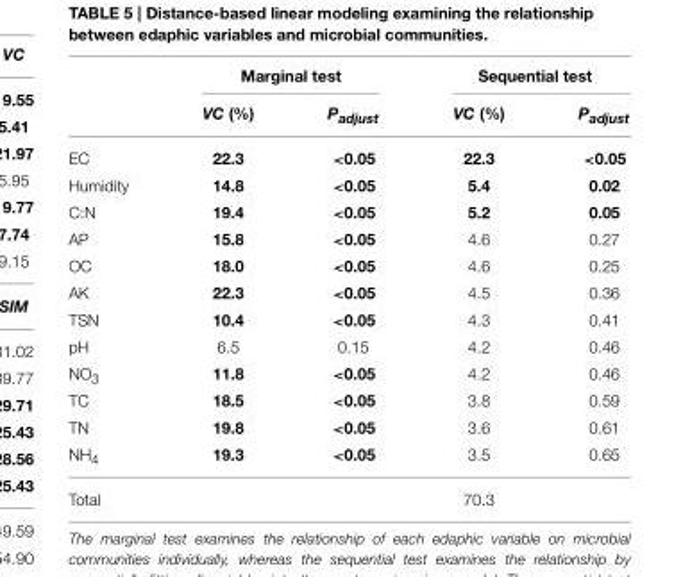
<table><thead><tr><td rowspan="2"></td><td colspan="2">Marginal test</td><td colspan="2">Sequential test</td></tr><tr><td>VC (%)</td><td>P<sub>adjust</sub></td><td>VC (%)</td><td>P<sub>adjust</sub></td></tr></thead><tbody><tr><td>EC</td><td>22.3</td><td>&lt;0.05</td><td>22.3</td><td>&lt;0.05</td></tr><tr><td>Humidity</td><td>14.8</td><td>&lt;0.05</td><td>5.4</td><td>0.02</td></tr><tr><td>C:N</td><td>19.4</td><td>&lt;0.05</td><td>5.2</td><td>0.05</td></tr><tr><td>AP</td><td>15.8</td><td>&lt;0.05</td><td>4.6</td><td>0.27</td></tr><tr><td>OC</td><td>18.0</td><td>&lt;0.05</td><td>4.6</td><td>0.25</td></tr><tr><td>AK</td><td>22.3</td><td>&lt;0.05</td><td>4.5</td><td>0.36</td></tr><tr><td>TSN</td><td>10.4</td><td>&lt;0.05</td><td>4.3</td><td>0.41</td></tr><tr><td>pH</td><td>6.5</td><td>0.15</td><td>4.2</td><td>0.46</td></tr><tr><td>NO<sub>3</sub></td><td>11.8</td><td>&lt;0.05</td><td>4.2</td><td>0.46</td></tr><tr><td>TC</td><td>18.5</td><td>&lt;0.05</td><td>3.8</td><td>0.59</td></tr><tr><td>TN</td><td>19.8</td><td>&lt;0.05</td><td>3.6</td><td>0.61</td></tr><tr><td>NH<sub>4</sub></td><td>19.3</td><td>&lt;0.05</td><td>3.5</td><td>0.65</td></tr><tr><td>Total</td><td></td><td></td><td>70.3</td><td></td></tr></tbody></table>